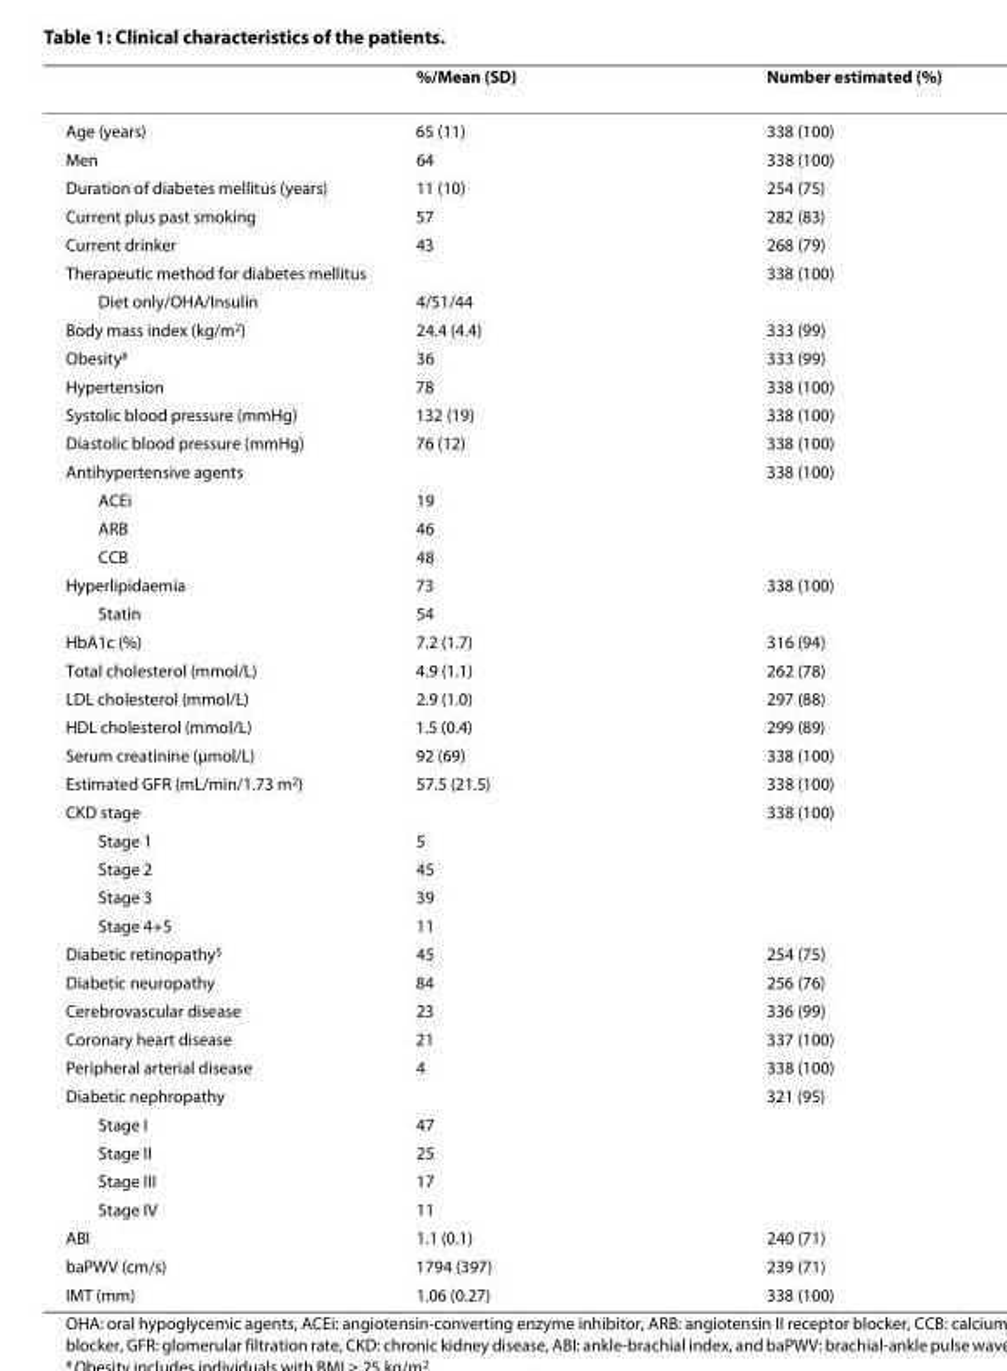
<table><thead><tr><td></td><td>%/Mean (SD)</td><td>Number estimated (%)</td></tr></thead><tbody><tr><td>Age (years)</td><td>65 (11)</td><td>338 (100)</td></tr><tr><td>Men</td><td>64</td><td>338 (100)</td></tr><tr><td>Duration of diabetes mellitus (years)</td><td>11 (10)</td><td>254 (75)</td></tr><tr><td>Current plus past smoking</td><td>57</td><td>282 (83)</td></tr><tr><td>Current drinker</td><td>43</td><td>268 (79)</td></tr><tr><td>Therapeutic method for diabetes mellitus</td><td></td><td>338 (100)</td></tr><tr><td>Diet only/OHA/Insulin</td><td>4/51/44</td><td></td></tr><tr><td>Body mass index (kg/m<sup>2</sup>)</td><td>24.4 (4.4)</td><td>333 (99)</td></tr><tr><td>Obesity<sup>#</sup></td><td>36</td><td>333 (99)</td></tr><tr><td>Hypertension</td><td>78</td><td>338 (100)</td></tr><tr><td>Systolic blood pressure (mmHg)</td><td>132 (19)</td><td>338 (100)</td></tr><tr><td>Diastolic blood pressure (mmHg)</td><td>76 (12)</td><td>338 (100)</td></tr><tr><td>Antihypertensive agents</td><td></td><td>338 (100)</td></tr><tr><td>ACEi</td><td>19</td><td></td></tr><tr><td>ARB</td><td>46</td><td></td></tr><tr><td>CCB</td><td>48</td><td></td></tr><tr><td>Hyperlipidaemia</td><td>73</td><td>338 (100)</td></tr><tr><td>Statin</td><td>54</td><td></td></tr><tr><td>HbA1c (%)</td><td>7.2 (1.7)</td><td>316 (94)</td></tr><tr><td>Total cholesterol (mmol/L)</td><td>4.9 (1.1)</td><td>262 (78)</td></tr><tr><td>LDL cholesterol (mmol/L)</td><td>2.9 (1.0)</td><td>297 (88)</td></tr><tr><td>HDL cholesterol (mmol/L)</td><td>1.5 (0.4)</td><td>299 (89)</td></tr><tr><td>Serum creatinine (μmol/L)</td><td>92 (69)</td><td>338 (100)</td></tr><tr><td>Estimated GFR (mL/min/1.73 m<sup>2</sup>)</td><td>57.5 (21.5)</td><td>338 (100)</td></tr><tr><td>CKD stage</td><td></td><td>338 (100)</td></tr><tr><td>Stage 1</td><td>5</td><td></td></tr><tr><td>Stage 2</td><td>45</td><td></td></tr><tr><td>Stage 3</td><td>39</td><td></td></tr><tr><td>Stage 4+5</td><td>11</td><td></td></tr><tr><td>Diabetic retinopathy<sup>$</sup></td><td>45</td><td>254 (75)</td></tr><tr><td>Diabetic neuropathy</td><td>84</td><td>256 (76)</td></tr><tr><td>Cerebrovascular disease</td><td>23</td><td>336 (99)</td></tr><tr><td>Coronary heart disease</td><td>21</td><td>337 (100)</td></tr><tr><td>Peripheral arterial disease</td><td>4</td><td>338 (100)</td></tr><tr><td>Diabetic nephropathy</td><td></td><td>321 (95)</td></tr><tr><td>Stage I</td><td>47</td><td></td></tr><tr><td>Stage II</td><td>25</td><td></td></tr><tr><td>Stage III</td><td>17</td><td></td></tr><tr><td>Stage IV</td><td>11</td><td></td></tr><tr><td>ABI</td><td>1.1 (0.1)</td><td>240 (71)</td></tr><tr><td>baPWV (cm/s)</td><td>1794 (397)</td><td>239 (71)</td></tr><tr><td>IMT (mm)</td><td>1.06 (0.27)</td><td>338 (100)</td></tr></tbody></table>